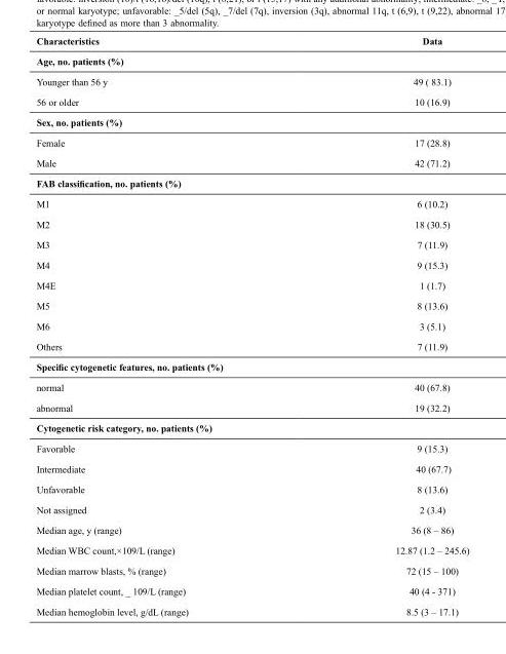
<table><thead><tr><td>Characteristics</td><td>Data</td></tr></thead><tbody><tr><td colspan="2">Age, no. patients (%)</td></tr><tr><td>Younger than 56 y</td><td>49 ( 83.1)</td></tr><tr><td>56 or older</td><td>10 (16.9)</td></tr><tr><td colspan="2">Sex, no. patients (%)</td></tr><tr><td>Female</td><td>17 (28.8)</td></tr><tr><td>Male</td><td>42 (71.2)</td></tr><tr><td colspan="2">FAB classification, no. patients (%)</td></tr><tr><td>M1</td><td>6 (10.2)</td></tr><tr><td>M2</td><td>18 (30.5)</td></tr><tr><td>M3</td><td>7 (11.9)</td></tr><tr><td>M4</td><td>9 (15.3)</td></tr><tr><td>M4E</td><td>1 (1.7)</td></tr><tr><td>M5</td><td>8 (13.6)</td></tr><tr><td>M6</td><td>3 (5.1)</td></tr><tr><td>Others</td><td>7 (11.9)</td></tr><tr><td colspan="2">Specific cytogenetic features, no. patients (%)</td></tr><tr><td>normal</td><td>40 (67.8)</td></tr><tr><td>abnormal</td><td>19 (32.2)</td></tr><tr><td colspan="2">Cytogenetic risk category, no. patients (%)</td></tr><tr><td>Favorable</td><td>9 (15.3)</td></tr><tr><td>Intermediate</td><td>40 (67.7)</td></tr><tr><td>Unfavorable</td><td>8 (13.6)</td></tr><tr><td>Not assigned</td><td>2 (3.4)</td></tr><tr><td>Median age, y (range)</td><td>36 (8 – 86)</td></tr><tr><td>Median WBC count,×10<sup>9</sup>/L (range)</td><td>12.87 (1.2 – 245.6)</td></tr><tr><td>Median marrow blasts, % (range)</td><td>72 (15 – 100)</td></tr><tr><td>Median platelet count, _ 10<sup>9</sup>/L (range)</td><td>40 (4 - 371)</td></tr><tr><td>Median hemoglobin level, g/dL (range)</td><td>8.5 (3 – 17.1)</td></tr></tbody></table>